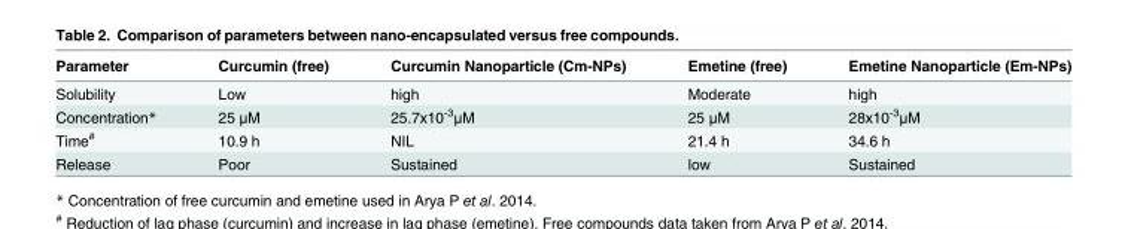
<table><thead><tr><td>Parameter</td><td>Curcumin (free)</td><td>Curcumin Nanoparticle (Cm-NPs)</td><td>Emetine (free)</td><td>Emetine Nanoparticle (Em-NPs)</td></tr></thead><tbody><tr><td>Solubility</td><td>Low</td><td>high</td><td>Moderate</td><td>high</td></tr><tr><td>Concentration*</td><td>25 μM</td><td>25.7x10<sup>-3</sup>μM</td><td>25 μM</td><td>28x10<sup>-3</sup>μM</td></tr><tr><td>Time<sup>#</sup></td><td>10.9 h</td><td>NIL</td><td>21.4 h</td><td>34.6 h</td></tr><tr><td>Release</td><td>Poor</td><td>Sustained</td><td>low</td><td>Sustained</td></tr></tbody></table>